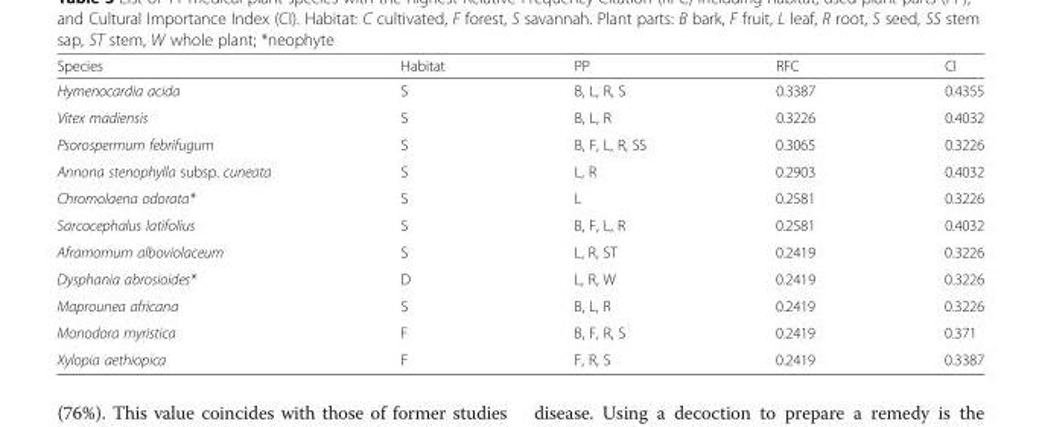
<table><thead><tr><td>Species</td><td>Habitat</td><td>PP</td><td>RFC</td><td>CI</td></tr></thead><tbody><tr><td>Hymenocardia acida</td><td>S</td><td>B, L, R, S</td><td>0.3387</td><td>0.4355</td></tr><tr><td>Vitex madiensis</td><td>S</td><td>B, L, R</td><td>0.3226</td><td>0.4032</td></tr><tr><td>Psorospermum febrifugum</td><td>S</td><td>B, F, L, R, SS</td><td>0.3065</td><td>0.3226</td></tr><tr><td>Annona stenophylla subsp. cuneata</td><td>S</td><td>L, R</td><td>0.2903</td><td>0.4032</td></tr><tr><td>Chromolaena odorata*</td><td>S</td><td>L</td><td>0.2581</td><td>0.3226</td></tr><tr><td>Sarcocephalus latifolius</td><td>S</td><td>B, F, L, R</td><td>0.2581</td><td>0.4032</td></tr><tr><td>Aframomum alboviolaceum</td><td>S</td><td>L, R, ST</td><td>0.2419</td><td>0.3226</td></tr><tr><td>Dysphania abrosioides*</td><td>D</td><td>L, R, W</td><td>0.2419</td><td>0.3226</td></tr><tr><td>Maprounea africana</td><td>S</td><td>B, L, R</td><td>0.2419</td><td>0.3226</td></tr><tr><td>Monodora myristica</td><td>F</td><td>B, F, R, S</td><td>0.2419</td><td>0.371</td></tr><tr><td>Xylopia aethiopica</td><td>F</td><td>F, R, S</td><td>0.2419</td><td>0.3387</td></tr></tbody></table>